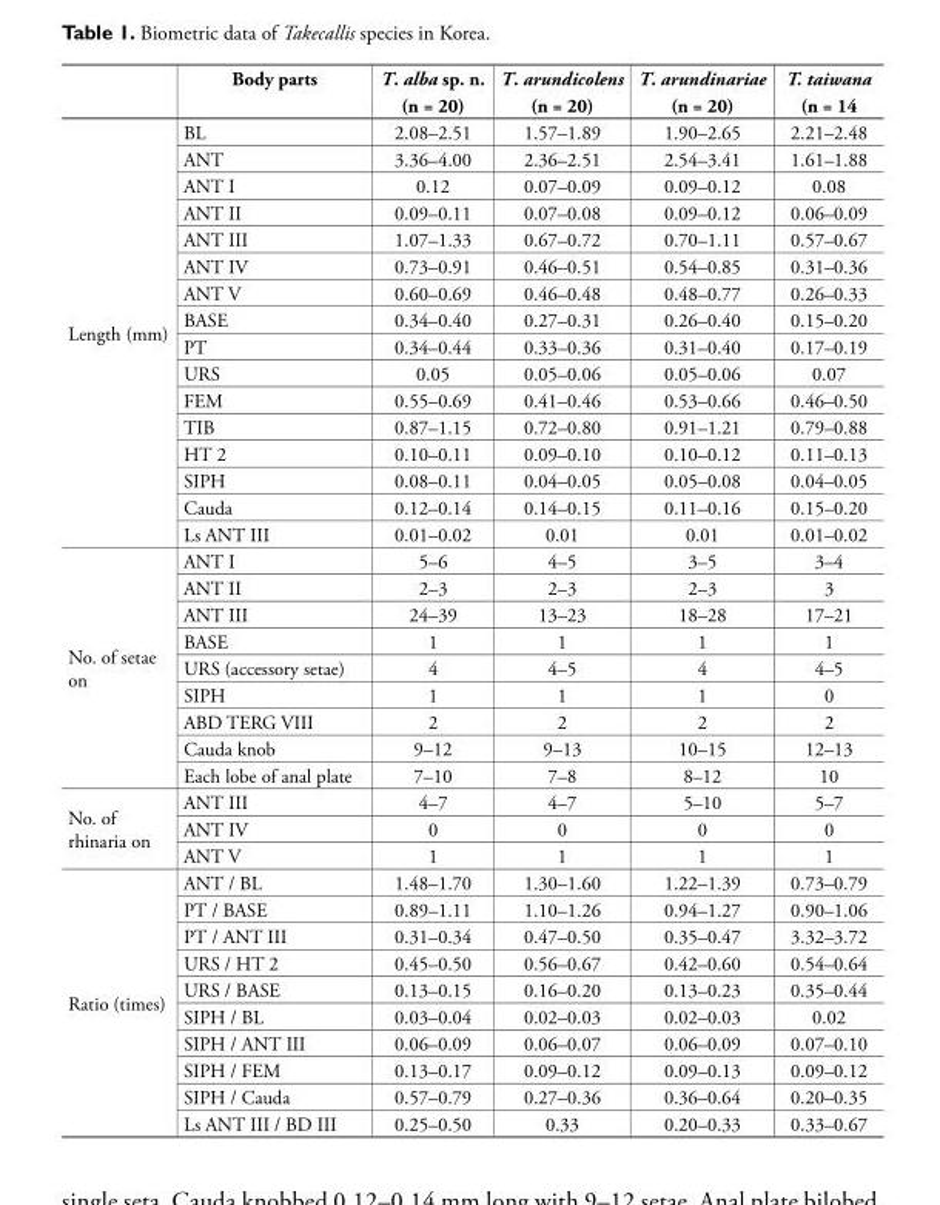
<table><thead><tr><td rowspan="2"></td><td rowspan="2">Body parts</td><td rowspan="2">T. alba sp. n. (n = 20)</td><td rowspan="2">T. arundicolens (n = 20)</td><td rowspan="2">T. arundinariae (n = 20)</td><td rowspan="2">T. taiwana (n = 14</td></tr><tr></tr></thead><tbody><tr><td rowspan="16">Length (mm)</td><td>BL</td><td>2.08–2.51</td><td>1.57–1.89</td><td>1.90–2.65</td><td>2.21–2.48</td></tr><tr><td>ANT</td><td>3.36–4.00</td><td>2.36–2.51</td><td>2.54–3.41</td><td>1.61–1.88</td></tr><tr><td>ANT I</td><td>0.12</td><td>0.07–0.09</td><td>0.09–0.12</td><td>0.08</td></tr><tr><td>ANT II</td><td>0.09–0.11</td><td>0.07–0.08</td><td>0.09–0.12</td><td>0.06–0.09</td></tr><tr><td>ANT III</td><td>1.07–1.33</td><td>0.67–0.72</td><td>0.70–1.11</td><td>0.57–0.67</td></tr><tr><td>ANT IV</td><td>0.73–0.91</td><td>0.46–0.51</td><td>0.54–0.85</td><td>0.31–0.36</td></tr><tr><td>ANT V</td><td>0.60–0.69</td><td>0.46–0.48</td><td>0.48–0.77</td><td>0.26–0.33</td></tr><tr><td>BASE</td><td>0.34–0.40</td><td>0.27–0.31</td><td>0.26–0.40</td><td>0.15–0.20</td></tr><tr><td>PT</td><td>0.34–0.44</td><td>0.33–0.36</td><td>0.31–0.40</td><td>0.17–0.19</td></tr><tr><td>URS</td><td>0.05</td><td>0.05–0.06</td><td>0.05–0.06</td><td>0.07</td></tr><tr><td>FEM</td><td>0.55–0.69</td><td>0.41–0.46</td><td>0.53–0.66</td><td>0.46–0.50</td></tr><tr><td>TIB</td><td>0.87–1.15</td><td>0.72–0.80</td><td>0.91–1.21</td><td>0.79–0.88</td></tr><tr><td>HT 2</td><td>0.10–0.11</td><td>0.09–0.10</td><td>0.10–0.12</td><td>0.11–0.13</td></tr><tr><td>SIPH</td><td>0.08–0.11</td><td>0.04–0.05</td><td>0.05–0.08</td><td>0.04–0.05</td></tr><tr><td>Cauda</td><td>0.12–0.14</td><td>0.14–0.15</td><td>0.11–0.16</td><td>0.15–0.20</td></tr><tr><td>Ls ANT III</td><td>0.01–0.02</td><td>0.01</td><td>0.01</td><td>0.01–0.02</td></tr><tr><td rowspan="9">No. of setae on</td><td>ANT I</td><td>5–6</td><td>4–5</td><td>3–5</td><td>3–4</td></tr><tr><td>ANT II</td><td>2–3</td><td>2–3</td><td>2–3</td><td>3</td></tr><tr><td>ANT III</td><td>24–39</td><td>13–23</td><td>18–28</td><td>17–21</td></tr><tr><td>BASE</td><td>1</td><td>1</td><td>1</td><td>1</td></tr><tr><td>URS (accessory setae)</td><td>4</td><td>4–5</td><td>4</td><td>4–5</td></tr><tr><td>SIPH</td><td>1</td><td>1</td><td>1</td><td>0</td></tr><tr><td>ABD TERG VIII</td><td>2</td><td>2</td><td>2</td><td>2</td></tr><tr><td>Cauda knob</td><td>9–12</td><td>9–13</td><td>10–15</td><td>12–13</td></tr><tr><td>Each lobe of anal plate</td><td>7–10</td><td>7–8</td><td>8–12</td><td>10</td></tr><tr><td rowspan="3">No. of rhinaria on</td><td>ANT III</td><td>4–7</td><td>4–7</td><td>5–10</td><td>5–7</td></tr><tr><td>ANT IV</td><td>0</td><td>0</td><td>0</td><td>0</td></tr><tr><td>ANT V</td><td>1</td><td>1</td><td>1</td><td>1</td></tr><tr><td rowspan="10">Ratio (times)</td><td>ANT / BL</td><td>1.48–1.70</td><td>1.30–1.60</td><td>1.22–1.39</td><td>0.73–0.79</td></tr><tr><td>PT / BASE</td><td>0.89–1.11</td><td>1.10–1.26</td><td>0.94–1.27</td><td>0.90–1.06</td></tr><tr><td>PT / ANT III</td><td>0.31–0.34</td><td>0.47–0.50</td><td>0.35–0.47</td><td>3.32–3.72</td></tr><tr><td>URS / HT 2</td><td>0.45–0.50</td><td>0.56–0.67</td><td>0.42–0.60</td><td>0.54–0.64</td></tr><tr><td>URS / BASE</td><td>0.13–0.15</td><td>0.16–0.20</td><td>0.13–0.23</td><td>0.35–0.44</td></tr><tr><td>SIPH / BL</td><td>0.03–0.04</td><td>0.02–0.03</td><td>0.02–0.03</td><td>0.02</td></tr><tr><td>SIPH / ANT III</td><td>0.06–0.09</td><td>0.06–0.07</td><td>0.06–0.09</td><td>0.07–0.10</td></tr><tr><td>SIPH / FEM</td><td>0.13–0.17</td><td>0.09–0.12</td><td>0.09–0.13</td><td>0.09–0.12</td></tr><tr><td>SIPH / Cauda</td><td>0.57–0.79</td><td>0.27–0.36</td><td>0.36–0.64</td><td>0.20–0.35</td></tr><tr><td>Ls ANT III / BD III</td><td>0.25–0.50</td><td>0.33</td><td>0.20–0.33</td><td>0.33–0.67</td></tr></tbody></table>